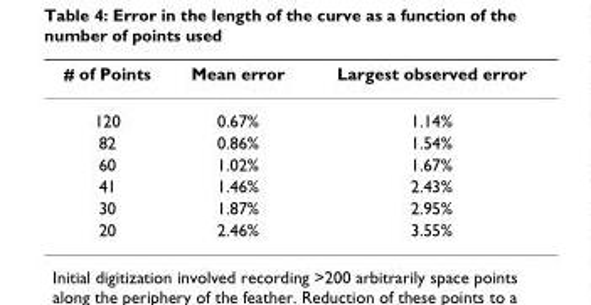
<table><thead><tr><td># of Points</td><td>Mean error</td><td>Largest observed error</td></tr></thead><tbody><tr><td>120</td><td>0.67%</td><td>1.14%</td></tr><tr><td>82</td><td>0.86%</td><td>1.54%</td></tr><tr><td>60</td><td>1.02%</td><td>1.67%</td></tr><tr><td>41</td><td>1.46%</td><td>2.43%</td></tr><tr><td>30</td><td>1.87%</td><td>2.95%</td></tr><tr><td>20</td><td>2.46%</td><td>3.55%</td></tr></tbody></table>